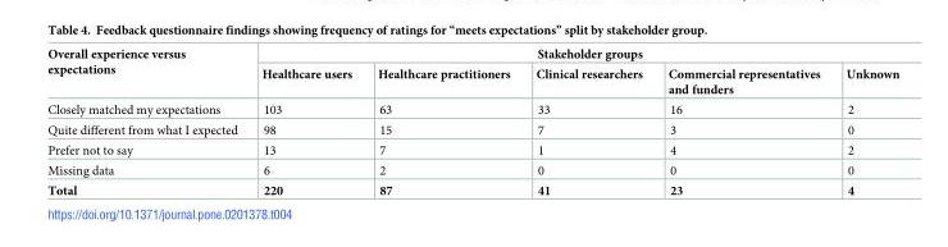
<table><thead><tr><td rowspan="2">Overall experience versus expectations</td><td colspan="5">Stakeholder groups</td></tr><tr><td>Healthcare users</td><td>Healthcare practitioners</td><td>Clinical researchers</td><td>Commercial representatives and funders</td><td>Unknown</td></tr></thead><tbody><tr><td>Closely matched my expectations</td><td>103</td><td>63</td><td>33</td><td>16</td><td>2</td></tr><tr><td>Quite different from what I expected</td><td>98</td><td>15</td><td>7</td><td>3</td><td>0</td></tr><tr><td>Prefer not to say</td><td>13</td><td>7</td><td>1</td><td>4</td><td>2</td></tr><tr><td>Missing data</td><td>6</td><td>2</td><td>0</td><td>0</td><td>0</td></tr><tr><td>Total</td><td>220</td><td>87</td><td>41</td><td>23</td><td>4</td></tr></tbody></table>